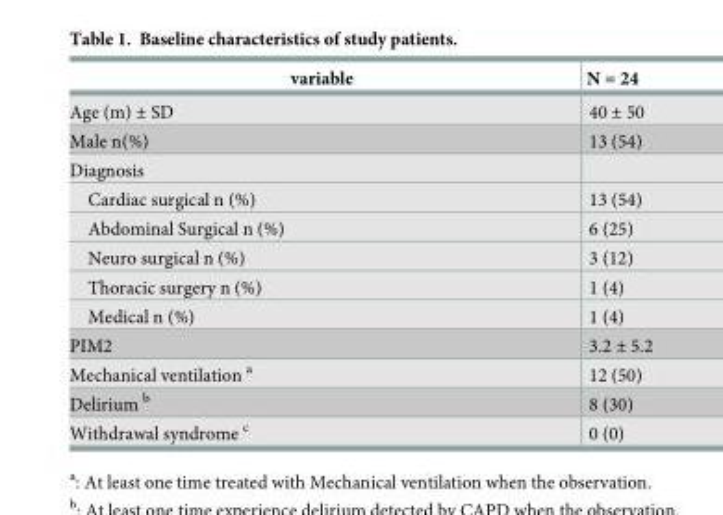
<table><thead><tr><td>variable</td><td>N = 24</td></tr></thead><tbody><tr><td>Age (m) ± SD</td><td>40 ± 50</td></tr><tr><td>Male n(%)</td><td>13 (54)</td></tr><tr><td colspan="2">Diagnosis</td></tr><tr><td>Cardiac surgical n (%)</td><td>13 (54)</td></tr><tr><td>Abdominal Surgical n (%)</td><td>6 (25)</td></tr><tr><td>Neuro surgical n (%)</td><td>3 (12)</td></tr><tr><td>Thoracic surgery n (%)</td><td>1 (4)</td></tr><tr><td>Medical n (%)</td><td>1 (4)</td></tr><tr><td>PIM2</td><td>3.2 ± 5.2</td></tr><tr><td>Mechanical ventilation <sup>a</sup></td><td>12 (50)</td></tr><tr><td>Delirium <sup>b</sup></td><td>8 (30)</td></tr><tr><td>Withdrawal syndrome <sup>c</sup></td><td>0 (0)</td></tr></tbody></table>